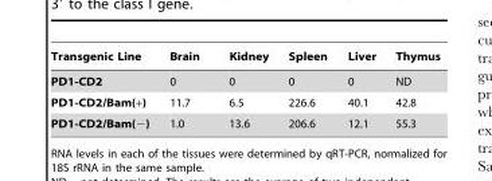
<table><thead><tr><td>Transgenic Line</td><td>Brain</td><td>Kidney</td><td>Spleen</td><td>Liver</td><td>Thymus</td></tr></thead><tbody><tr><td>PD1-CD2</td><td>0</td><td>0</td><td>0</td><td>0</td><td>ND</td></tr><tr><td>PD1-CD2/Bam(+)</td><td>11.7</td><td>6.5</td><td>226.6</td><td>40.1</td><td>42.8</td></tr><tr><td>PD1-CD2/Bam(−)</td><td>1.0</td><td>13.6</td><td>206.6</td><td>12.1</td><td>55.3</td></tr></tbody></table>